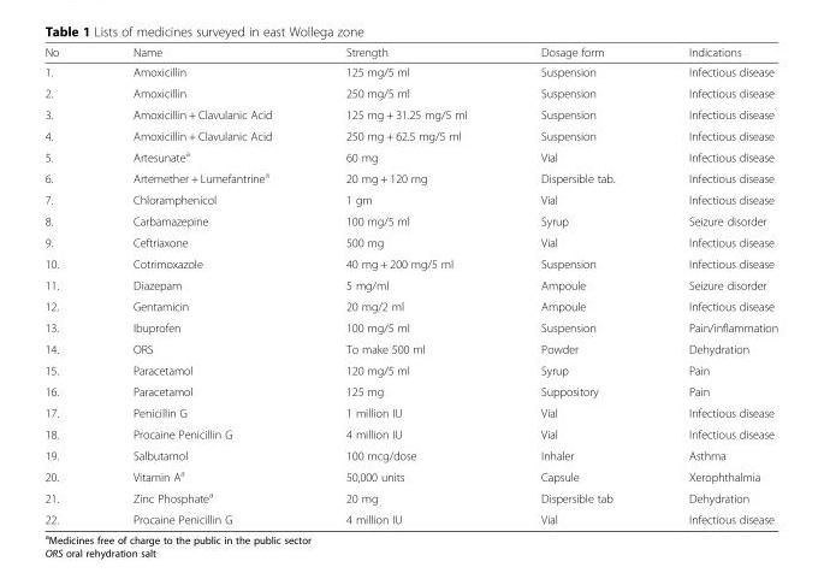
<table><thead><tr><td>No</td><td>Name</td><td>Strength</td><td>Dosage form</td><td>Indications</td></tr></thead><tbody><tr><td>1.</td><td>Amoxicillin</td><td>125 mg/5 ml</td><td>Suspension</td><td>Infectious disease</td></tr><tr><td>2.</td><td>Amoxicillin</td><td>250 mg/5 ml</td><td>Suspension</td><td>Infectious disease</td></tr><tr><td>3.</td><td>Amoxicillin + Clavulanic Acid</td><td>125 mg + 31.25 mg/5 ml</td><td>Suspension</td><td>Infectious disease</td></tr><tr><td>4.</td><td>Amoxicillin + Clavulanic Acid</td><td>250 mg + 62.5 mg/5 ml</td><td>Suspension</td><td>Infectious disease</td></tr><tr><td>5.</td><td>Artesunate<sup>a</sup></td><td>60 mg</td><td>Vial</td><td>Infectious disease</td></tr><tr><td>6.</td><td>Artemether + Lumefantrine<sup>a</sup></td><td>20 mg + 120 mg</td><td>Dispersible tab.</td><td>Infectious disease</td></tr><tr><td>7.</td><td>Chloramphenicol</td><td>1 gm</td><td>Vial</td><td>Infectious disease</td></tr><tr><td>8.</td><td>Carbamazepine</td><td>100 mg/5 ml</td><td>Syrup</td><td>Seizure disorder</td></tr><tr><td>9.</td><td>Ceftriaxone</td><td>500 mg</td><td>Vial</td><td>Infectious disease</td></tr><tr><td>10.</td><td>Cotrimoxazole</td><td>40 mg + 200 mg/5 ml</td><td>Suspension</td><td>Infectious disease</td></tr><tr><td>11.</td><td>Diazepam</td><td>5 mg/ml</td><td>Ampoule</td><td>Seizure disorder</td></tr><tr><td>12.</td><td>Gentamicin</td><td>20 mg/2 ml</td><td>Ampoule</td><td>Infectious disease</td></tr><tr><td>13.</td><td>Ibuprofen</td><td>100 mg/5 ml</td><td>Suspension</td><td>Pain/inflammation</td></tr><tr><td>14.</td><td>ORS</td><td>To make 500 ml</td><td>Powder</td><td>Dehydration</td></tr><tr><td>15.</td><td>Paracetamol</td><td>120 mg/5 ml</td><td>Syrup</td><td>Pain</td></tr><tr><td>16.</td><td>Paracetamol</td><td>125 mg</td><td>Suppository</td><td>Pain</td></tr><tr><td>17.</td><td>Penicillin G</td><td>1 million IU</td><td>Vial</td><td>Infectious disease</td></tr><tr><td>18.</td><td>Procaine Penicillin G</td><td>4 million IU</td><td>Vial</td><td>Infectious disease</td></tr><tr><td>19.</td><td>Salbutamol</td><td>100 mcg/dose</td><td>Inhaler</td><td>Asthma</td></tr><tr><td>20.</td><td>Vitamin A<sup>a</sup></td><td>50,000 units</td><td>Capsule</td><td>Xerophthalmia</td></tr><tr><td>21.</td><td>Zinc Phosphate<sup>a</sup></td><td>20 mg</td><td>Dispersible tab</td><td>Dehydration</td></tr><tr><td>22.</td><td>Procaine Penicillin G</td><td>4 million IU</td><td>Vial</td><td>Infectious disease</td></tr></tbody></table>